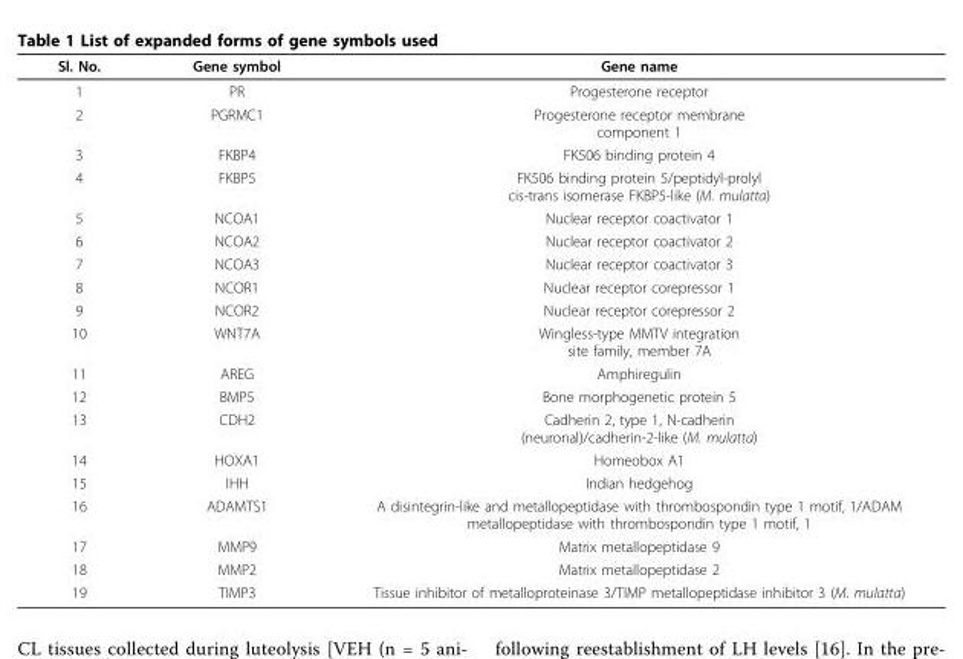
<table><thead><tr><td>Sl. No.</td><td>Gene symbol</td><td>Gene name</td></tr></thead><tbody><tr><td>1</td><td>PR</td><td>Progesterone receptor</td></tr><tr><td>2</td><td>PGRMC1</td><td>Progesterone receptor membrane component 1</td></tr><tr><td>3</td><td>FKBP4</td><td>FK506 binding protein 4</td></tr><tr><td>4</td><td>FKBP5</td><td>FK506 binding protein 5/peptidyl-prolyl cis-trans isomerase FKBP5-like (M. mulatta)</td></tr><tr><td>5</td><td>NCOA1</td><td>Nuclear receptor coactivator 1</td></tr><tr><td>6</td><td>NCOA2</td><td>Nuclear receptor coactivator 2</td></tr><tr><td>7</td><td>NCOA3</td><td>Nuclear receptor coactivator 3</td></tr><tr><td>8</td><td>NCOR1</td><td>Nuclear receptor corepressor 1</td></tr><tr><td>9</td><td>NCOR2</td><td>Nuclear receptor corepressor 2</td></tr><tr><td>10</td><td>WNT7A</td><td>Wingless-type MMTV integration site family, member 7A</td></tr><tr><td>11</td><td>AREG</td><td>Amphiregulin</td></tr><tr><td>12</td><td>BMP5</td><td>Bone morphogenetic protein 5</td></tr><tr><td>13</td><td>CDH2</td><td>Cadherin 2, type 1, N-cadherin (neuronal)/cadherin-2-like (M. mulatta)</td></tr><tr><td>14</td><td>HOXA1</td><td>Homeobox A1</td></tr><tr><td>15</td><td>IHH</td><td>Indian hedgehog</td></tr><tr><td>16</td><td>ADAMTS1</td><td>A disintegrin-like and metallopeptidase with thrombospondin type 1 motif, 1/ADAM metallopeptidase with thrombospondin type 1 motif, 1</td></tr><tr><td>17</td><td>MMP9</td><td>Matrix metallopeptidase 9</td></tr><tr><td>18</td><td>MMP2</td><td>Matrix metallopeptidase 2</td></tr><tr><td>19</td><td>TIMP3</td><td>Tissue inhibitor of metalloproteinase 3/TIMP metallopeptidase inhibitor 3 (M. mulatta)</td></tr></tbody></table>